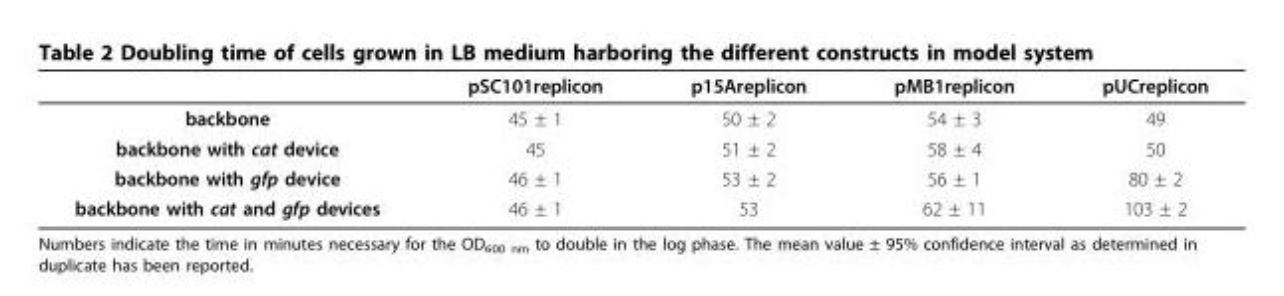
<table><thead><tr><td></td><td>pSC101replicon</td><td>p15Areplicon</td><td>pMB1replicon</td><td>pUCreplicon</td></tr></thead><tbody><tr><td>backbone</td><td>45 ± 1</td><td>50 ± 2</td><td>54 ± 3</td><td>49</td></tr><tr><td>backbone with cat device</td><td>45</td><td>51 ± 2</td><td>58 ± 4</td><td>50</td></tr><tr><td>backbone with gfp device</td><td>46 ± 1</td><td>53 ± 2</td><td>56 ± 1</td><td>80 ± 2</td></tr><tr><td>backbone with cat and gfp devices</td><td>46 ± 1</td><td>53</td><td>62 ± 11</td><td>103 ± 2</td></tr></tbody></table>